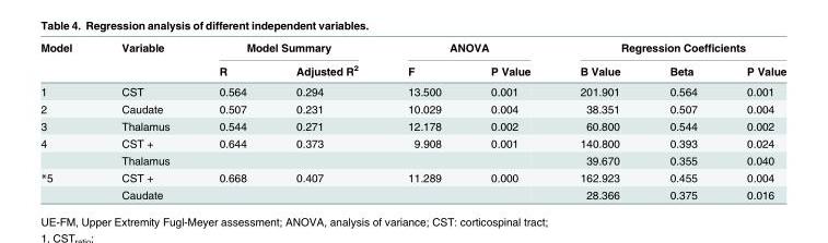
<table><thead><tr><td rowspan="2">Model</td><td rowspan="2">Variable</td><td colspan="2">Model Summary</td><td colspan="2">ANOVA</td><td colspan="3">Regression Coefficients</td></tr><tr><td>R</td><td>Adjusted R<sup>2</sup></td><td>F</td><td>P Value</td><td>B Value</td><td>Beta</td><td>P Value</td></tr></thead><tbody><tr><td>1</td><td>CST</td><td>0.564</td><td>0.294</td><td>13.500</td><td>0.001</td><td>201.901</td><td>0.564</td><td>0.001</td></tr><tr><td>2</td><td>Caudate</td><td>0.507</td><td>0.231</td><td>10.029</td><td>0.004</td><td>38.351</td><td>0.507</td><td>0.004</td></tr><tr><td>3</td><td>Thalamus</td><td>0.544</td><td>0.271</td><td>12.178</td><td>0.002</td><td>60.800</td><td>0.544</td><td>0.002</td></tr><tr><td rowspan="2">4</td><td>CST +</td><td>0.644</td><td>0.373</td><td>9.908</td><td>0.001</td><td>140.800</td><td>0.393</td><td>0.024</td></tr><tr><td>Thalamus</td><td></td><td></td><td></td><td></td><td>39.670</td><td>0.355</td><td>0.040</td></tr><tr><td rowspan="2">*5</td><td>CST +</td><td>0.668</td><td>0.407</td><td>11.289</td><td>0.000</td><td>162.923</td><td>0.455</td><td>0.004</td></tr><tr><td>Caudate</td><td></td><td></td><td></td><td></td><td>28.366</td><td>0.375</td><td>0.016</td></tr></tbody></table>